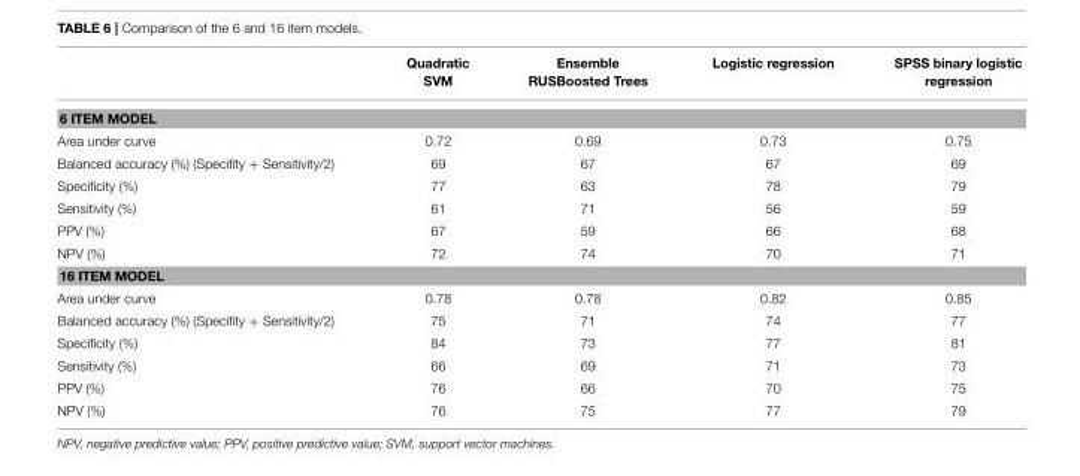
<table><thead><tr><td></td><td>Quadratic SVM</td><td>Ensemble RUSBoosted Trees</td><td>Logistic regression</td><td>SPSS binary logistic regression</td></tr></thead><tbody><tr><td colspan="5">6 ITEM MODEL</td></tr><tr><td>Area under curve</td><td>0.72</td><td>0.69</td><td>0.73</td><td>0.75</td></tr><tr><td>Balanced accuracy (%) (Specifity + Sensitivity/2)</td><td>69</td><td>67</td><td>67</td><td>69</td></tr><tr><td>Specificity (%)</td><td>77</td><td>63</td><td>78</td><td>79</td></tr><tr><td>Sensitivity (%)</td><td>61</td><td>71</td><td>56</td><td>59</td></tr><tr><td>PPV (%)</td><td>67</td><td>59</td><td>66</td><td>68</td></tr><tr><td>NPV (%)</td><td>72</td><td>74</td><td>70</td><td>71</td></tr><tr><td colspan="5">16 ITEM MODEL</td></tr><tr><td>Area under curve</td><td>0.78</td><td>0.78</td><td>0.82</td><td>0.85</td></tr><tr><td>Balanced accuracy (%) (Specifity + Sensitivity/2)</td><td>75</td><td>71</td><td>74</td><td>77</td></tr><tr><td>Specificity (%)</td><td>84</td><td>73</td><td>77</td><td>81</td></tr><tr><td>Sensitivity (%)</td><td>66</td><td>69</td><td>71</td><td>73</td></tr><tr><td>PPV (%)</td><td>76</td><td>66</td><td>70</td><td>75</td></tr><tr><td>NPV (%)</td><td>76</td><td>75</td><td>77</td><td>79</td></tr></tbody></table>